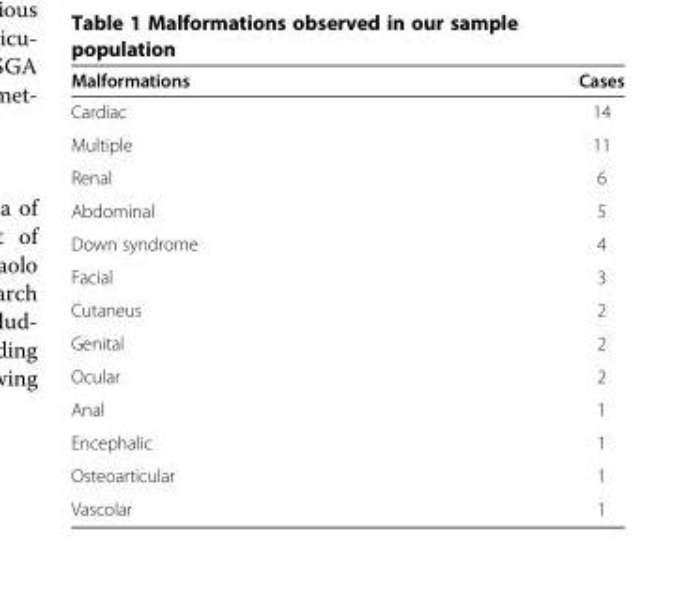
<table><thead><tr><td>Malformations</td><td>Cases</td></tr></thead><tbody><tr><td>Cardiac</td><td>14</td></tr><tr><td>Multiple</td><td>11</td></tr><tr><td>Renal</td><td>6</td></tr><tr><td>Abdominal</td><td>5</td></tr><tr><td>Down syndrome</td><td>4</td></tr><tr><td>Facial</td><td>3</td></tr><tr><td>Cutaneus</td><td>2</td></tr><tr><td>Genital</td><td>2</td></tr><tr><td>Ocular</td><td>2</td></tr><tr><td>Anal</td><td>1</td></tr><tr><td>Encephalic</td><td>1</td></tr><tr><td>Osteoarticular</td><td>1</td></tr><tr><td>Vascolar</td><td>1</td></tr></tbody></table>